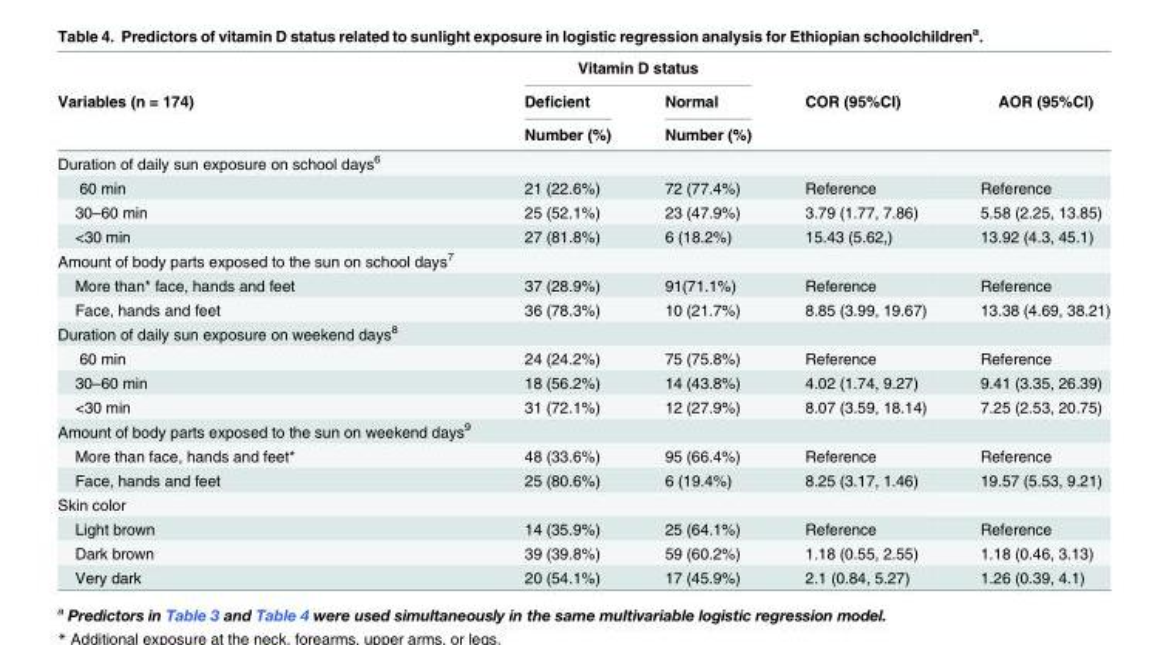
<table><thead><tr><td rowspan="3">Variables (n = 174)</td><td colspan="2">Vitamin D status</td><td rowspan="3">COR (95%CI)</td><td rowspan="3">AOR (95%CI)</td></tr><tr><td rowspan="2">Deficient Number (%)</td><td rowspan="2">Normal Number (%)</td></tr><tr></tr></thead><tbody><tr><td colspan="5">Duration of daily sun exposure on school days<sup>6</sup></td></tr><tr><td>≥60 min</td><td>21 (22.6%)</td><td>72 (77.4%)</td><td>Reference</td><td>Reference</td></tr><tr><td>30–60 min</td><td>25 (52.1%)</td><td>23 (47.9%)</td><td>3.79 (1.77, 7.86)</td><td>5.58 (2.25, 13.85)</td></tr><tr><td>&lt;30 min</td><td>27 (81.8%)</td><td>6 (18.2%)</td><td>15.43 (5.62,)</td><td>13.92 (4.3, 45.1)</td></tr><tr><td colspan="5">Amount of body parts exposed to the sun on school days<sup>7</sup></td></tr><tr><td>More than* face, hands and feet</td><td>37 (28.9%)</td><td>91(71.1%)</td><td>Reference</td><td>Reference</td></tr><tr><td>Face, hands and feet</td><td>36 (78.3%)</td><td>10 (21.7%)</td><td>8.85 (3.99, 19.67)</td><td>13.38 (4.69, 38.21)</td></tr><tr><td colspan="5">Duration of daily sun exposure on weekend days<sup>8</sup></td></tr><tr><td>≥60 min</td><td>24 (24.2%)</td><td>75 (75.8%)</td><td>Reference</td><td>Reference</td></tr><tr><td>30–60 min</td><td>18 (56.2%)</td><td>14 (43.8%)</td><td>4.02 (1.74, 9.27)</td><td>9.41 (3.35, 26.39)</td></tr><tr><td>&lt;30 min</td><td>31 (72.1%)</td><td>12 (27.9%)</td><td>8.07 (3.59, 18.14)</td><td>7.25 (2.53, 20.75)</td></tr><tr><td colspan="5">Amount of body parts exposed to the sun on weekend days<sup>9</sup></td></tr><tr><td>More than face, hands and feet*</td><td>48 (33.6%)</td><td>95 (66.4%)</td><td>Reference</td><td>Reference</td></tr><tr><td>Face, hands and feet</td><td>25 (80.6%)</td><td>6 (19.4%)</td><td>8.25 (3.17, 1.46)</td><td>19.57 (5.53, 9.21)</td></tr><tr><td colspan="5">Skin color</td></tr><tr><td>Light brown</td><td>14 (35.9%)</td><td>25 (64.1%)</td><td>Reference</td><td>Reference</td></tr><tr><td>Dark brown</td><td>39 (39.8%)</td><td>59 (60.2%)</td><td>1.18 (0.55, 2.55)</td><td>1.18 (0.46, 3.13)</td></tr><tr><td>Very dark</td><td>20 (54.1%)</td><td>17 (45.9%)</td><td>2.1 (0.84, 5.27)</td><td>1.26 (0.39, 4.1)</td></tr></tbody></table>